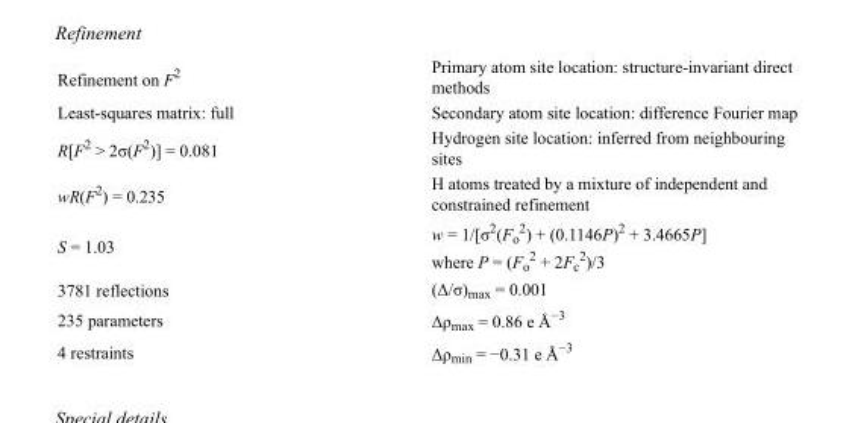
<table><tbody><tr><td>Refinement on F<sup>2</sup></td><td>Primary atom site location: structure-invariant direct methods</td></tr><tr><td>Least-squares matrix: full</td><td>Secondary atom site location: difference Fourier map</td></tr><tr><td>R[F<sup>2</sup> &gt; 2σ(F<sup>2</sup>)] = 0.081</td><td>Hydrogen site location: inferred from neighbouring sites</td></tr><tr><td>wR(F<sup>2</sup>) = 0.235</td><td>H atoms treated by a mixture of independent and constrained refinement</td></tr><tr><td>S = 1.03</td><td>w = 1/[σ<sup>2</sup>(F<sub>o</sub> <sup>2</sup>) + (0.1146P)<sup>2</sup> + 3.4665P] where P = (F<sub>o</sub> <sup>2</sup> + 2F<sub>c</sub> <sup>2</sup>)/3</td></tr><tr><td>3781 reflections</td><td>(Δ/σ)<sub>max</sub> = 0.001</td></tr><tr><td>235 parameters</td><td>Δρ<sub>max</sub> = 0.86 e Å<sup>−3</sup></td></tr><tr><td>4 restraints</td><td>Δρ<sub>min</sub> = −0.31 e Å<sup>−3</sup></td></tr></tbody></table>